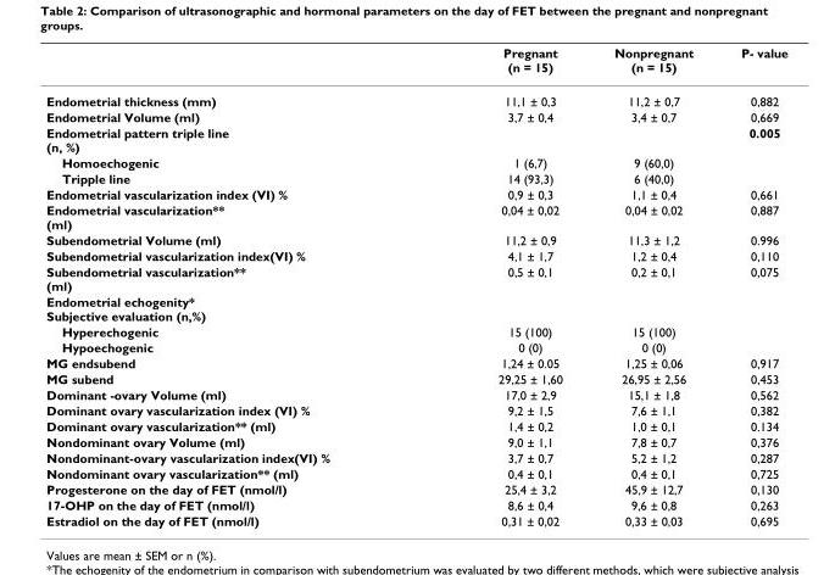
<table><thead><tr><td></td><td>Pregnant (n = 15)</td><td>Nonpregnant (n = 15)</td><td>P- value</td></tr></thead><tbody><tr><td>Endometrial thickness (mm)</td><td>11,1 ± 0,3</td><td>11,2 ± 0,7</td><td>0,882</td></tr><tr><td>Endometrial Volume (ml)</td><td>3,7 ± 0,4</td><td>3,4 ± 0,7</td><td>0,669</td></tr><tr><td>Endometrial pattern triple line (n, %)</td><td></td><td></td><td>0.005</td></tr><tr><td>Homoechogenic</td><td>1 (6,7)</td><td>9 (60,0)</td><td></td></tr><tr><td>Tripple line</td><td>14 (93,3)</td><td>6 (40,0)</td><td></td></tr><tr><td>Endometrial vascularization index (VI) %</td><td>0,9 ± 0,3</td><td>1,1 ± 0,4</td><td>0,661</td></tr><tr><td>Endometrial vascularization** (ml)</td><td>0,04 ± 0,02</td><td>0,04 ± 0,02</td><td>0,887</td></tr><tr><td>Subendometrial Volume (ml)</td><td>11,2 ± 0,9</td><td>11,3 ± 1,2</td><td>0.996</td></tr><tr><td>Subendometrial vascularization index(VI) %</td><td>4,1 ± 1,7</td><td>1,2 ± 0,4</td><td>0,110</td></tr><tr><td>Subendometrial vascularization** (ml)</td><td>0,5 ± 0,1</td><td>0,2 ± 0,1</td><td>0,075</td></tr><tr><td colspan="4">Endometrial echogenity* Subjective evaluation (n,%)</td></tr><tr><td>Hyperechogenic</td><td>15 (100)</td><td>15 (100)</td><td></td></tr><tr><td>Hypoechogenic</td><td>0 (0)</td><td>0 (0)</td><td></td></tr><tr><td>MG endsubend</td><td>1,24 ± 0.05</td><td>1,25 ± 0,06</td><td>0,917</td></tr><tr><td>MG subend</td><td>29,25 ± 1,60</td><td>26,95 ± 2,56</td><td>0,453</td></tr><tr><td>Dominant -ovary Volume (ml)</td><td>17,0 ± 2,9</td><td>15,1 ± 1,8</td><td>0,562</td></tr><tr><td>Dominant ovary vascularization index (VI) %</td><td>9,2 ± 1,5</td><td>7,6 ± 1,1</td><td>0,382</td></tr><tr><td>Dominant ovary vascularization** (ml)</td><td>1,4 ± 0,2</td><td>1,0 ± 0,1</td><td>0.134</td></tr><tr><td>Nondominant ovary Volume (ml)</td><td>9,0 ± 1,1</td><td>7,8 ± 0,7</td><td>0,376</td></tr><tr><td>Nondominant-ovary vascularization index(VI) %</td><td>3,7 ± 0,7</td><td>5,2 ± 1,2</td><td>0,287</td></tr><tr><td>Nondominant ovary vascularization** (ml)</td><td>0,4 ± 0,1</td><td>0,4 ± 0,1</td><td>0,725</td></tr><tr><td>Progesterone on the day of FET (nmol/l)</td><td>25,4 ± 3,2</td><td>45,9 ± 12,7</td><td>0,130</td></tr><tr><td>17-OHP on the day of FET (nmol/l)</td><td>8,6 ± 0,4</td><td>9,6 ± 0,8</td><td>0,263</td></tr><tr><td>Estradiol on the day of FET (nmol/l)</td><td>0,31 ± 0,02</td><td>0,33 ± 0,03</td><td>0,695</td></tr></tbody></table>